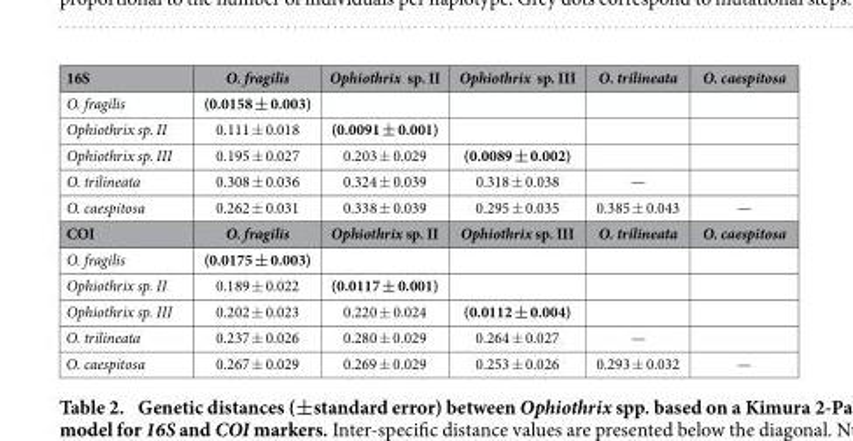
<table><thead><tr><td>16S</td><td>O. fragilis</td><td>Ophiothrix sp. II</td><td>Ophiothrix sp. III</td><td>O. trilineata</td><td>O. caespitosa</td></tr></thead><tbody><tr><td>O. fragilis</td><td>(0.0158 ± 0.003)</td><td></td><td></td><td></td><td></td></tr><tr><td>Ophiothrix sp. II</td><td>0.111 ± 0.018</td><td>(0.0091 ± 0.001)</td><td></td><td></td><td></td></tr><tr><td>Ophiothrix sp. III</td><td>0.195 ± 0.027</td><td>0.203 ± 0.029</td><td>(0.0089 ± 0.002)</td><td></td><td></td></tr><tr><td>O. trilineata</td><td>0.308 ± 0.036</td><td>0.324 ± 0.039</td><td>0.318 ± 0.038</td><td>—</td><td></td></tr><tr><td>O. caespitosa</td><td>0.262 ± 0.031</td><td>0.338 ± 0.039</td><td>0.295 ± 0.035</td><td>0.385 ± 0.043</td><td>—</td></tr><tr><td>COI</td><td>O. fragilis</td><td>Ophiothrix sp. II</td><td>Ophiothrix sp. III</td><td>O. trilineata</td><td>O. caespitosa</td></tr><tr><td>O. fragilis</td><td>(0.0175 ± 0.003)</td><td></td><td></td><td></td><td></td></tr><tr><td>Ophiothrix sp. II</td><td>0.189 ± 0.022</td><td>(0.0117 ± 0.001)</td><td></td><td></td><td></td></tr><tr><td>Ophiothrix sp. III</td><td>0.202 ± 0.023</td><td>0.220 ± 0.024</td><td>(0.0112 ± 0.004)</td><td></td><td></td></tr><tr><td>O. trilineata</td><td>0.237 ± 0.026</td><td>0.280 ± 0.029</td><td>0.264 ± 0.027</td><td>—</td><td></td></tr><tr><td>O. caespitosa</td><td>0.267 ± 0.029</td><td>0.269 ± 0.029</td><td>0.253 ± 0.026</td><td>0.293 ± 0.032</td><td>—</td></tr></tbody></table>